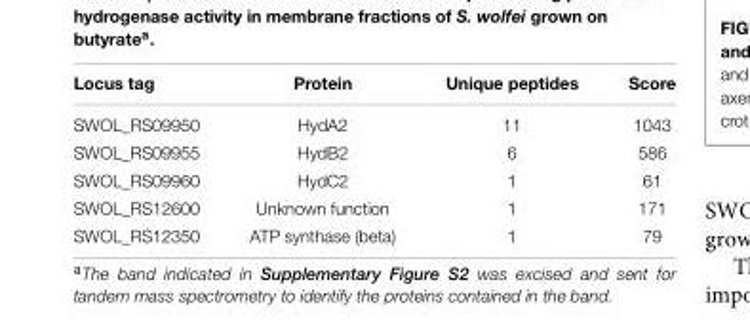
<table><thead><tr><td>Locus tag</td><td>Protein</td><td>Unique peptides</td><td>Score</td></tr></thead><tbody><tr><td>SWOL_RS09950</td><td>HydA2</td><td>11</td><td>1043</td></tr><tr><td>SWOL_RS09955</td><td>HydB2</td><td>6</td><td>586</td></tr><tr><td>SWOL_RS09960</td><td>HydC2</td><td>1</td><td>61</td></tr><tr><td>SWOL_RS12600</td><td>Unknown function</td><td>1</td><td>171</td></tr><tr><td>SWOL_RS12350</td><td>ATP synthase (beta)</td><td>1</td><td>79</td></tr></tbody></table>